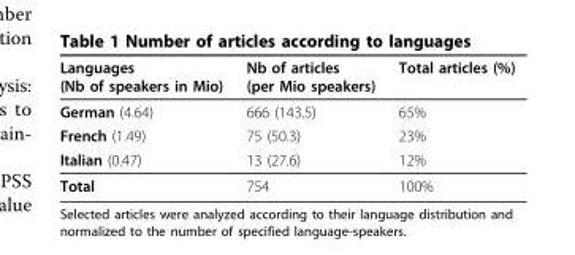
<table><thead><tr><td>Languages (Nb of speakers in Mio)</td><td>Nb of articles (per Mio speakers)</td><td>Total articles (%)</td></tr></thead><tbody><tr><td>German (4.64)</td><td>666 (143.5)</td><td>65%</td></tr><tr><td>French (1.49)</td><td>75 (50.3)</td><td>23%</td></tr><tr><td>Italian (0.47)</td><td>13 (27.6)</td><td>12%</td></tr><tr><td>Total</td><td>754</td><td>100%</td></tr></tbody></table>